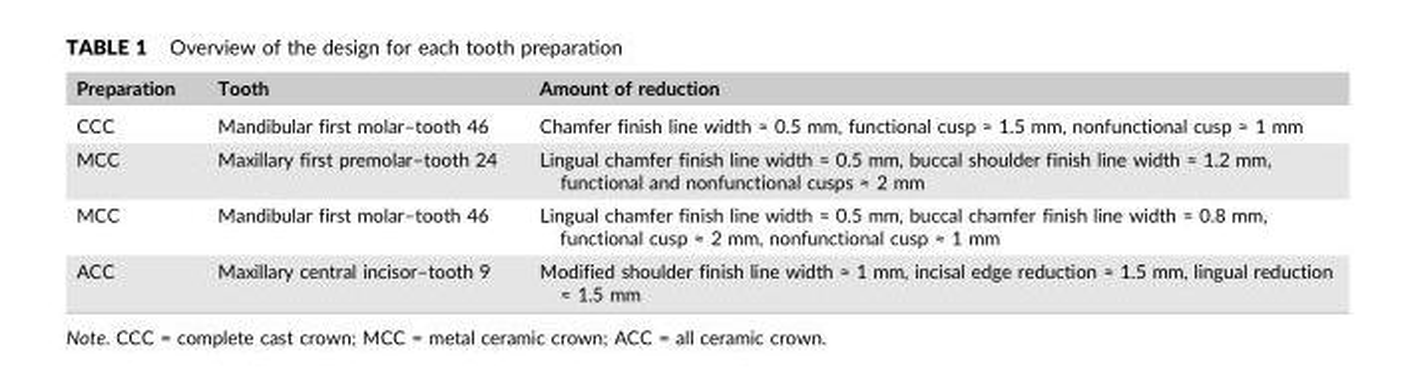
<table><thead><tr><td>Preparation</td><td>Tooth</td><td>Amount of reduction</td></tr></thead><tbody><tr><td>CCC</td><td>Mandibular first molar–tooth 46</td><td>Chamfer finish line width ≈ 0.5 mm, functional cusp ≈ 1.5 mm, nonfunctional cusp ≈ 1 mm</td></tr><tr><td>MCC</td><td>Maxillary first premolar–tooth 24</td><td>Lingual chamfer finish line width ≈ 0.5 mm, buccal shoulder finish line width ≈ 1.2 mm, functional and nonfunctional cusps ≈ 2 mm</td></tr><tr><td>MCC</td><td>Mandibular first molar–tooth 46</td><td>Lingual chamfer finish line width ≈ 0.5 mm, buccal chamfer finish line width ≈ 0.8 mm, functional cusp ≈ 2 mm, nonfunctional cusp ≈ 1 mm</td></tr><tr><td>ACC</td><td>Maxillary central incisor–tooth 9</td><td>Modified shoulder finish line width ≈ 1 mm, incisal edge reduction ≈ 1.5 mm, lingual reduction ≈ 1.5 mm</td></tr></tbody></table>